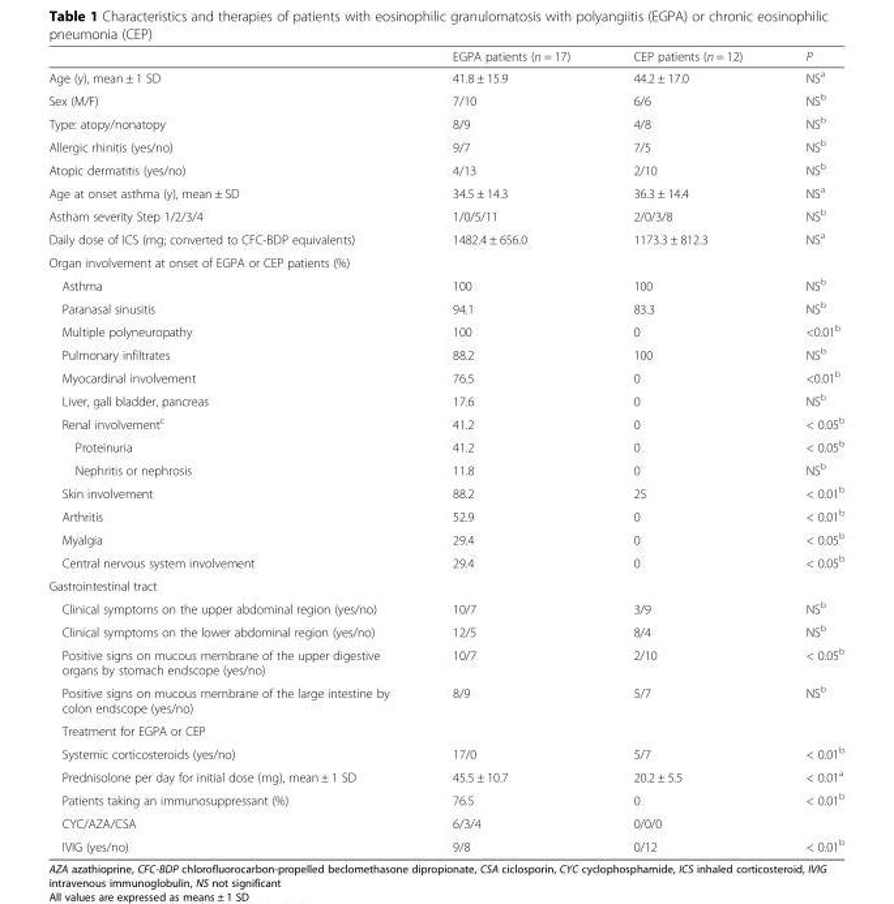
<table><thead><tr><td></td><td>EGPA patients (n = 17)</td><td>CEP patients (n = 12)</td><td>P</td></tr></thead><tbody><tr><td>Age (y), mean ± 1 SD</td><td>41.8 ± 15.9</td><td>44.2 ± 17.0</td><td>NS<sup>a</sup></td></tr><tr><td>Sex (M/F)</td><td>7/10</td><td>6/6</td><td>NS<sup>b</sup></td></tr><tr><td>Type: atopy/nonatopy</td><td>8/9</td><td>4/8</td><td>NS<sup>b</sup></td></tr><tr><td>Allergic rhinitis (yes/no)</td><td>9/7</td><td>7/5</td><td>NS<sup>b</sup></td></tr><tr><td>Atopic dermatitis (yes/no)</td><td>4/13</td><td>2/10</td><td>NS<sup>b</sup></td></tr><tr><td>Age at onset asthma (y), mean ± SD</td><td>34.5 ± 14.3</td><td>36.3 ± 14.4</td><td>NS<sup>a</sup></td></tr><tr><td>Astham severity Step 1/2/3/4</td><td>1/0/5/11</td><td>2/0/3/8</td><td>NS<sup>b</sup></td></tr><tr><td>Daily dose of ICS (mg; converted to CFC-BDP equivalents)</td><td>1482.4 ± 656.0</td><td>1173.3 ± 812.3</td><td>NS<sup>a</sup></td></tr><tr><td colspan="4">Organ involvement at onset of EGPA or CEP patients (%)</td></tr><tr><td>Asthma</td><td>100</td><td>100</td><td>NS<sup>b</sup></td></tr><tr><td>Paranasal sinusitis</td><td>94.1</td><td>83.3</td><td>NS<sup>b</sup></td></tr><tr><td>Multiple polyneuropathy</td><td>100</td><td>0</td><td>&lt;0.01<sup>b</sup></td></tr><tr><td>Pulmonary infiltrates</td><td>88.2</td><td>100</td><td>NS<sup>b</sup></td></tr><tr><td>Myocardinal involvement</td><td>76.5</td><td>0</td><td>&lt;0.01<sup>b</sup></td></tr><tr><td>Liver, gall bladder, pancreas</td><td>17.6</td><td>0</td><td>NS<sup>b</sup></td></tr><tr><td>Renal involvement<sup>c</sup></td><td>41.2</td><td>0</td><td>&lt; 0.05<sup>b</sup></td></tr><tr><td>Proteinuria</td><td>41.2</td><td>0</td><td>&lt; 0.05<sup>b</sup></td></tr><tr><td>Nephritis or nephrosis</td><td>11.8</td><td>0</td><td>NS<sup>b</sup></td></tr><tr><td>Skin involvement</td><td>88.2</td><td>25</td><td>&lt; 0.01<sup>b</sup></td></tr><tr><td>Arthritis</td><td>52.9</td><td>0</td><td>&lt; 0.01<sup>b</sup></td></tr><tr><td>Myalgia</td><td>29.4</td><td>0</td><td>&lt; 0.05<sup>b</sup></td></tr><tr><td>Central nervous system involvement</td><td>29.4</td><td>0</td><td>&lt; 0.05<sup>b</sup></td></tr><tr><td colspan="4">Gastrointestinal tract</td></tr><tr><td>Clinical symptoms on the upper abdominal region (yes/no)</td><td>10/7</td><td>3/9</td><td>NS<sup>b</sup></td></tr><tr><td>Clinical symptoms on the lower abdominal region (yes/no)</td><td>12/5</td><td>8/4</td><td>NS<sup>b</sup></td></tr><tr><td>Positive signs on mucous membrane of the upper digestive organs by stomach endscope (yes/no)</td><td>10/7</td><td>2/10</td><td>&lt; 0.05<sup>b</sup></td></tr><tr><td>Positive signs on mucous membrane of the large intestine by colon endscope (yes/no)</td><td>8/9</td><td>5/7</td><td>NS<sup>b</sup></td></tr><tr><td colspan="4">Treatment for EGPA or CEP</td></tr><tr><td>Systemic corticosteroids (yes/no)</td><td>17/0</td><td>5/7</td><td>&lt; 0.01<sup>b</sup></td></tr><tr><td>Prednisolone per day for initial dose (mg), mean ± 1 SD</td><td>45.5 ± 10.7</td><td>20.2 ± 5.5</td><td>&lt; 0.01<sup>a</sup></td></tr><tr><td>Patients taking an immunosuppressant (%)</td><td>76.5</td><td>0</td><td>&lt; 0.01<sup>b</sup></td></tr><tr><td>CYC/AZA/CSA</td><td>6/3/4</td><td>0/0/0</td><td></td></tr><tr><td>IVIG (yes/no)</td><td>9/8</td><td>0/12</td><td>&lt; 0.01<sup>b</sup></td></tr></tbody></table>